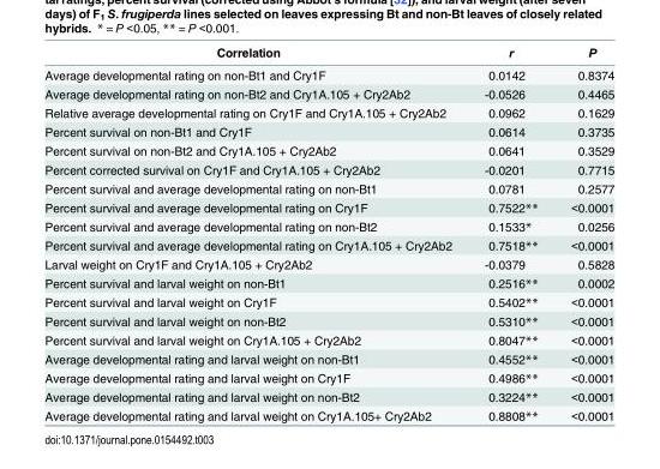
<table><thead><tr><td>Correlation</td><td>r</td><td>P</td></tr></thead><tbody><tr><td>Average developmental rating on non-Bt1 and Cry1F</td><td>0.0142</td><td>0.8374</td></tr><tr><td>Average developmental rating on non-Bt2 and Cry1A.105 + Cry2Ab2</td><td>-0.0526</td><td>0.4465</td></tr><tr><td>Relative average developmental rating on Cry1F and Cry1A.105 + Cry2Ab2</td><td>0.0962</td><td>0.1629</td></tr><tr><td>Percent survival on non-Bt1 and Cry1F</td><td>0.0614</td><td>0.3735</td></tr><tr><td>Percent survival on non-Bt2 and Cry1A.105 + Cry2Ab2</td><td>0.0641</td><td>0.3529</td></tr><tr><td>Percent corrected survival on Cry1F and Cry1A.105 + Cry2Ab2</td><td>-0.0201</td><td>0.7715</td></tr><tr><td>Percent survival and average developmental rating on non-Bt1</td><td>0.0781</td><td>0.2577</td></tr><tr><td>Percent survival and average developmental rating on Cry1F</td><td>0.7522**</td><td>&lt;0.0001</td></tr><tr><td>Percent survival and average developmental rating on non-Bt2</td><td>0.1533*</td><td>0.0256</td></tr><tr><td>Percent survival and average developmental rating on Cry1A.105 + Cry2Ab2</td><td>0.7518**</td><td>&lt;0.0001</td></tr><tr><td>Larval weight on Cry1F and Cry1A.105 + Cry2Ab2</td><td>-0.0379</td><td>0.5828</td></tr><tr><td>Percent survival and larval weight on non-Bt1</td><td>0.2516**</td><td>0.0002</td></tr><tr><td>Percent survival and larval weight on Cry1F</td><td>0.5402**</td><td>&lt;0.0001</td></tr><tr><td>Percent survival and larval weight on non-Bt2</td><td>0.5310**</td><td>&lt;0.0001</td></tr><tr><td>Percent survival and larval weight on Cry1A.105 + Cry2Ab2</td><td>0.8047**</td><td>&lt;0.0001</td></tr><tr><td>Average developmental rating and larval weight on non-Bt1</td><td>0.4552**</td><td>&lt;0.0001</td></tr><tr><td>Average developmental rating and larval weight on Cry1F</td><td>0.4986**</td><td>&lt;0.0001</td></tr><tr><td>Average developmental rating and larval weight on non-Bt2</td><td>0.3224**</td><td>&lt;0.0001</td></tr><tr><td>Average developmental rating and larval weight on Cry1A.105+ Cry2Ab2</td><td>0.8808**</td><td>&lt;0.0001</td></tr></tbody></table>